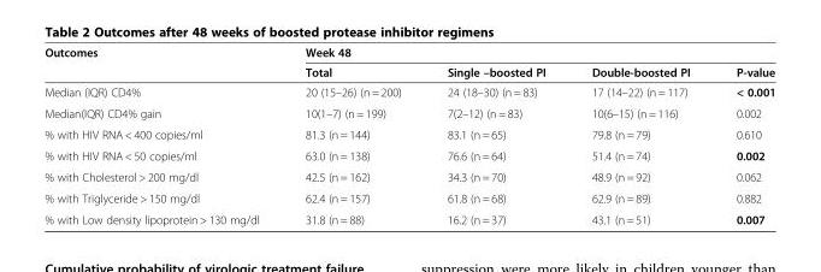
<table><thead><tr><td rowspan="2">Outcomes</td><td colspan="4">Week 48</td></tr><tr><td>Total</td><td>Single –boosted PI</td><td>Double-boosted PI</td><td>P-value</td></tr></thead><tbody><tr><td>Median (IQR) CD4%</td><td>20 (15–26) (n = 200)</td><td>24 (18–30) (n = 83)</td><td>17 (14–22) (n = 117)</td><td>&lt; 0.001</td></tr><tr><td>Median(IQR) CD4% gain</td><td>10(1–7) (n = 199)</td><td>7(2–12) (n = 83)</td><td>10(6–15) (n = 116)</td><td>0.002</td></tr><tr><td>% with HIV RNA &lt; 400 copies/ml</td><td>81.3 (n = 144)</td><td>83.1 (n = 65)</td><td>79.8 (n = 79)</td><td>0.610</td></tr><tr><td>% with HIV RNA &lt; 50 copies/ml</td><td>63.0 (n = 138)</td><td>76.6 (n = 64)</td><td>51.4 (n = 74)</td><td>0.002</td></tr><tr><td>% with Cholesterol &gt; 200 mg/dl</td><td>42.5 (n = 162)</td><td>34.3 (n = 70)</td><td>48.9 (n = 92)</td><td>0.062</td></tr><tr><td>% with Triglyceride &gt; 150 mg/dl</td><td>62.4 (n = 157)</td><td>61.8 (n = 68)</td><td>62.9 (n = 89)</td><td>0.882</td></tr><tr><td>% with Low density lipoprotein &gt; 130 mg/dl</td><td>31.8 (n = 88)</td><td>16.2 (n = 37)</td><td>43.1 (n = 51)</td><td>0.007</td></tr></tbody></table>